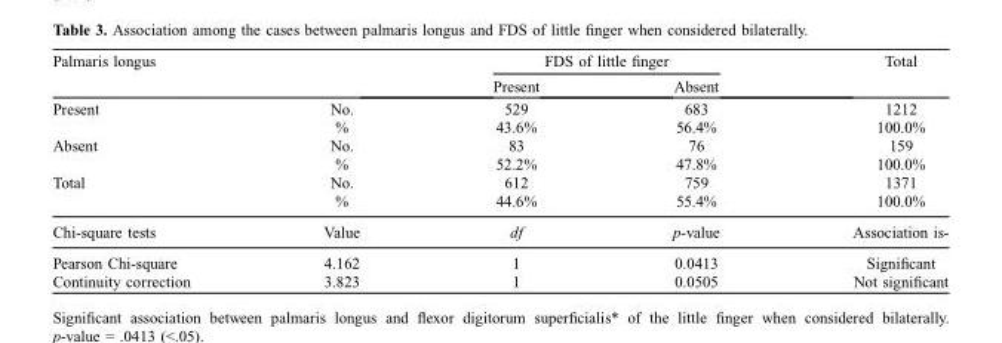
<table><thead><tr><td rowspan="2">Palmaris longus</td><td rowspan="2"></td><td colspan="2">FDS of little finger</td><td rowspan="2">Total</td></tr><tr><td>Present</td><td>Absent</td></tr></thead><tbody><tr><td rowspan="2">Present</td><td>No.</td><td>529</td><td>683</td><td>1212</td></tr><tr><td>%</td><td>43.6%</td><td>56.4%</td><td>100.0%</td></tr><tr><td rowspan="2">Absent</td><td>No.</td><td>83</td><td>76</td><td>159</td></tr><tr><td>%</td><td>52.2%</td><td>47.8%</td><td>100.0%</td></tr><tr><td rowspan="2">Total</td><td>No.</td><td>612</td><td>759</td><td>1371</td></tr><tr><td>%</td><td>44.6%</td><td>55.4%</td><td>100.0%</td></tr><tr><td>Chi-square tests</td><td>Value</td><td>df</td><td>p-value</td><td>Association is-</td></tr><tr><td>Pearson Chi-square</td><td>4.162</td><td>1</td><td>0.0413</td><td>Significant</td></tr><tr><td>Continuity correction</td><td>3.823</td><td>1</td><td>0.0505</td><td>Not significant</td></tr></tbody></table>